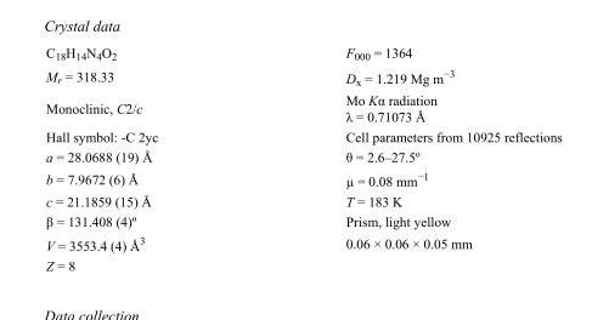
<table><tbody><tr><td>C<sub>18</sub>H<sub>14</sub>N<sub>4</sub>O<sub>2</sub></td><td>F000 = 1364</td></tr><tr><td>M<sub>r</sub> = 318.33</td><td>D<sub>x</sub> = 1.219 Mg m<sup>−3</sup></td></tr><tr><td>Monoclinic, C2/c</td><td>Mo Kα radiation λ = 0.71073 Å</td></tr><tr><td>Hall symbol: -C 2yc</td><td>Cell parameters from 10925 reflections</td></tr><tr><td>a = 28.0688 (19) Å</td><td>θ = 2.6–27.5º</td></tr><tr><td>b = 7.9672 (6) Å</td><td>µ = 0.08 mm<sup>−1</sup></td></tr><tr><td>c = 21.1859 (15) Å</td><td>T = 183 K</td></tr><tr><td>β = 131.408 (4)º</td><td>Prism, light yellow</td></tr><tr><td>V = 3553.4 (4) Å<sup>3</sup></td><td>0.06 × 0.06 × 0.05 mm</td></tr><tr><td>Z = 8</td><td></td></tr></tbody></table>